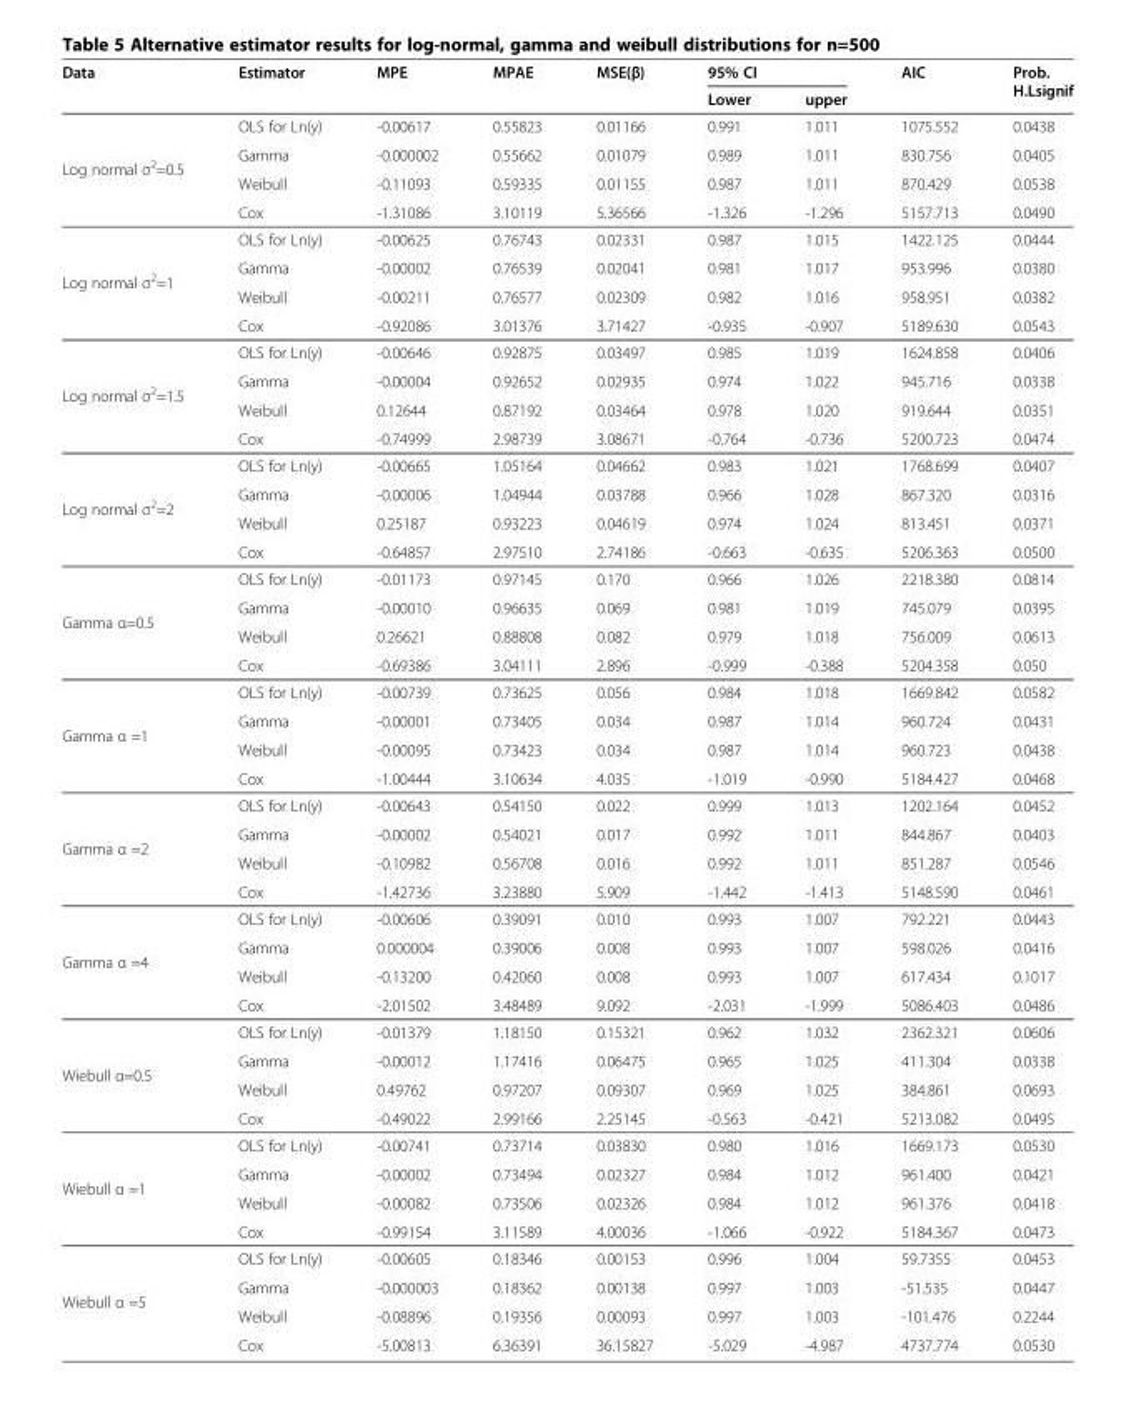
<table><thead><tr><td rowspan="2">Data</td><td rowspan="2">Estimator</td><td rowspan="2">MPE</td><td rowspan="2">MPAE</td><td rowspan="2">MSE(β)</td><td colspan="2">95% CI</td><td rowspan="2">AIC</td><td rowspan="2">Prob. H.Lsignif</td></tr><tr><td>Lower</td><td>upper</td></tr></thead><tbody><tr><td rowspan="4">Log normal σ<sup>2</sup>=0.5</td><td>OLS for Ln(y)</td><td>-0.00617</td><td>0.55823</td><td>0.01166</td><td>0.991</td><td>1.011</td><td>1075.552</td><td>0.0438</td></tr><tr><td>Gamma</td><td>-0.000002</td><td>0.55662</td><td>0.01079</td><td>0.989</td><td>1.011</td><td>830.756</td><td>0.0405</td></tr><tr><td>Weibull</td><td>-0.11093</td><td>0.59335</td><td>0.01155</td><td>0.987</td><td>1.011</td><td>870.429</td><td>0.0538</td></tr><tr><td>Cox</td><td>-1.31086</td><td>3.10119</td><td>5.36566</td><td>-1.326</td><td>-1.296</td><td>5157.713</td><td>0.0490</td></tr><tr><td rowspan="4">Log normal σ<sup>2</sup>=1</td><td>OLS for Ln(y)</td><td>-0.00625</td><td>0.76743</td><td>0.02331</td><td>0.987</td><td>1.015</td><td>1422.125</td><td>0.0444</td></tr><tr><td>Gamma</td><td>-0.00002</td><td>0.76539</td><td>0.02041</td><td>0.981</td><td>1.017</td><td>953.996</td><td>0.0380</td></tr><tr><td>Weibull</td><td>-0.00211</td><td>0.76577</td><td>0.02309</td><td>0.982</td><td>1.016</td><td>958.951</td><td>0.0382</td></tr><tr><td>Cox</td><td>-0.92086</td><td>3.01376</td><td>3.71427</td><td>-0.935</td><td>-0.907</td><td>5189.630</td><td>0.0543</td></tr><tr><td rowspan="4">Log normal σ<sup>2</sup>=1.5</td><td>OLS for Ln(y)</td><td>-0.00646</td><td>0.92875</td><td>0.03497</td><td>0.985</td><td>1.019</td><td>1624.858</td><td>0.0406</td></tr><tr><td>Gamma</td><td>-0.00004</td><td>0.92652</td><td>0.02935</td><td>0.974</td><td>1.022</td><td>945.716</td><td>0.0338</td></tr><tr><td>Weibull</td><td>0.12644</td><td>0.87192</td><td>0.03464</td><td>0.978</td><td>1.020</td><td>919.644</td><td>0.0351</td></tr><tr><td>Cox</td><td>-0.74999</td><td>2.98739</td><td>3.08671</td><td>-0.764</td><td>-0.736</td><td>5200.723</td><td>0.0474</td></tr><tr><td rowspan="4">Log normal σ<sup>2</sup>=2</td><td>OLS for Ln(y)</td><td>-0.00665</td><td>1.05164</td><td>0.04662</td><td>0.983</td><td>1.021</td><td>1768.699</td><td>0.0407</td></tr><tr><td>Gamma</td><td>-0.00006</td><td>1.04944</td><td>0.03788</td><td>0.966</td><td>1.028</td><td>867.320</td><td>0.0316</td></tr><tr><td>Weibull</td><td>0.25187</td><td>0.93223</td><td>0.04619</td><td>0.974</td><td>1.024</td><td>813.451</td><td>0.0371</td></tr><tr><td>Cox</td><td>-0.64857</td><td>2.97510</td><td>2.74186</td><td>-0.663</td><td>-0.635</td><td>5206.363</td><td>0.0500</td></tr><tr><td rowspan="4">Gamma α=0.5</td><td>OLS for Ln(y)</td><td>-0.01173</td><td>0.97145</td><td>0.170</td><td>0.966</td><td>1.026</td><td>2218.380</td><td>0.0814</td></tr><tr><td>Gamma</td><td>-0.00010</td><td>0.96635</td><td>0.069</td><td>0.981</td><td>1.019</td><td>745.079</td><td>0.0395</td></tr><tr><td>Weibull</td><td>0.26621</td><td>0.88808</td><td>0.082</td><td>0.979</td><td>1.018</td><td>756.009</td><td>0.0613</td></tr><tr><td>Cox</td><td>-0.69386</td><td>3.04111</td><td>2.896</td><td>-0.999</td><td>-0.388</td><td>5204.358</td><td>0.050</td></tr><tr><td rowspan="4">Gamma α =1</td><td>OLS for Ln(y)</td><td>-0.00739</td><td>0.73625</td><td>0.056</td><td>0.984</td><td>1.018</td><td>1669.842</td><td>0.0582</td></tr><tr><td>Gamma</td><td>-0.00001</td><td>0.73405</td><td>0.034</td><td>0.987</td><td>1.014</td><td>960.724</td><td>0.0431</td></tr><tr><td>Weibull</td><td>-0.00095</td><td>0.73423</td><td>0.034</td><td>0.987</td><td>1.014</td><td>960.723</td><td>0.0438</td></tr><tr><td>Cox</td><td>-1.00444</td><td>3.10634</td><td>4.035</td><td>-1.019</td><td>-0.990</td><td>5184.427</td><td>0.0468</td></tr><tr><td rowspan="4">Gamma α =2</td><td>OLS for Ln(y)</td><td>-0.00643</td><td>0.54150</td><td>0.022</td><td>0.999</td><td>1.013</td><td>1202.164</td><td>0.0452</td></tr><tr><td>Gamma</td><td>-0.00002</td><td>0.54021</td><td>0.017</td><td>0.992</td><td>1.011</td><td>844.867</td><td>0.0403</td></tr><tr><td>Weibull</td><td>-0.10982</td><td>0.56708</td><td>0.016</td><td>0.992</td><td>1.011</td><td>851.287</td><td>0.0546</td></tr><tr><td>Cox</td><td>-1.42736</td><td>3.23880</td><td>5.909</td><td>-1.442</td><td>-1.413</td><td>5148.590</td><td>0.0461</td></tr><tr><td rowspan="4">Gamma α =4</td><td>OLS for Ln(y)</td><td>-0.00606</td><td>0.39091</td><td>0.010</td><td>0.993</td><td>1.007</td><td>792.221</td><td>0.0443</td></tr><tr><td>Gamma</td><td>0.000004</td><td>0.39006</td><td>0.008</td><td>0.993</td><td>1.007</td><td>598.026</td><td>0.0416</td></tr><tr><td>Weibull</td><td>-0.13200</td><td>0.42060</td><td>0.008</td><td>0.993</td><td>1.007</td><td>617.434</td><td>0.1017</td></tr><tr><td>Cox</td><td>-2.01502</td><td>3.48489</td><td>9.092</td><td>-2.031</td><td>-1.999</td><td>5086.403</td><td>0.0486</td></tr><tr><td rowspan="4">Wiebull α=0.5</td><td>OLS for Ln(y)</td><td>-0.01379</td><td>1.18150</td><td>0.15321</td><td>0.962</td><td>1.032</td><td>2362.321</td><td>0.0606</td></tr><tr><td>Gamma</td><td>-0.00012</td><td>1.17416</td><td>0.06475</td><td>0.965</td><td>1.025</td><td>411.304</td><td>0.0338</td></tr><tr><td>Weibull</td><td>0.49762</td><td>0.97207</td><td>0.09307</td><td>0.969</td><td>1.025</td><td>384.861</td><td>0.0693</td></tr><tr><td>Cox</td><td>-0.49022</td><td>2.99166</td><td>2.25145</td><td>-0.563</td><td>-0.421</td><td>5213.082</td><td>0.0495</td></tr><tr><td rowspan="4">Wiebull α =1</td><td>OLS for Ln(y)</td><td>-0.00741</td><td>0.73714</td><td>0.03830</td><td>0.980</td><td>1.016</td><td>1669.173</td><td>0.0530</td></tr><tr><td>Gamma</td><td>-0.00002</td><td>0.73494</td><td>0.02327</td><td>0.984</td><td>1.012</td><td>961.400</td><td>0.0421</td></tr><tr><td>Weibull</td><td>-0.00082</td><td>0.73506</td><td>0.02326</td><td>0.984</td><td>1.012</td><td>961.376</td><td>0.0418</td></tr><tr><td>Cox</td><td>-0.99154</td><td>3.11589</td><td>4.00036</td><td>-1.066</td><td>-0.922</td><td>5184.367</td><td>0.0473</td></tr><tr><td rowspan="4">Wiebull α =5</td><td>OLS for Ln(y)</td><td>-0.00605</td><td>0.18346</td><td>0.00153</td><td>0.996</td><td>1.004</td><td>59.7355</td><td>0.0453</td></tr><tr><td>Gamma</td><td>-0.000003</td><td>0.18362</td><td>0.00138</td><td>0.997</td><td>1.003</td><td>-51.535</td><td>0.0447</td></tr><tr><td>Weibull</td><td>-0.08896</td><td>0.19356</td><td>0.00093</td><td>0.997</td><td>1.003</td><td>-101.476</td><td>0.2244</td></tr><tr><td>Cox</td><td>-5.00813</td><td>6.36391</td><td>36.15827</td><td>-5.029</td><td>-4.987</td><td>4737.774</td><td>0.0530</td></tr></tbody></table>